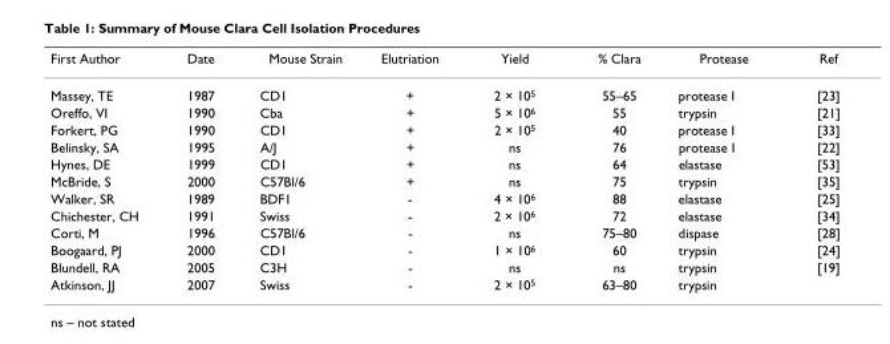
<table><thead><tr><td>First Author</td><td>Date</td><td>Mouse Strain</td><td>Elutriation</td><td>Yield</td><td>% Clara</td><td>Protease</td><td>Ref</td></tr></thead><tbody><tr><td>Massey, TE</td><td>1987</td><td>CD1</td><td>+</td><td>2 × 10<sup>5</sup></td><td>55–65</td><td>protease I</td><td>[23]</td></tr><tr><td>Oreffo, VI</td><td>1990</td><td>Cba</td><td>+</td><td>5 × 10<sup>6</sup></td><td>55</td><td>trypsin</td><td>[21]</td></tr><tr><td>Forkert, PG</td><td>1990</td><td>CD1</td><td>+</td><td>2 × 10<sup>5</sup></td><td>40</td><td>protease I</td><td>[33]</td></tr><tr><td>Belinsky, SA</td><td>1995</td><td>A/J</td><td>+</td><td>ns</td><td>76</td><td>protease I</td><td>[22]</td></tr><tr><td>Hynes, DE</td><td>1999</td><td>CD1</td><td>+</td><td>ns</td><td>64</td><td>elastase</td><td>[53]</td></tr><tr><td>McBride, S</td><td>2000</td><td>C57Bl/6</td><td>+</td><td>ns</td><td>75</td><td>trypsin</td><td>[35]</td></tr><tr><td>Walker, SR</td><td>1989</td><td>BDF1</td><td>-</td><td>4 × 10<sup>6</sup></td><td>88</td><td>elastase</td><td>[25]</td></tr><tr><td>Chichester, CH</td><td>1991</td><td>Swiss</td><td>-</td><td>2 × 10<sup>6</sup></td><td>72</td><td>elastase</td><td>[34]</td></tr><tr><td>Corti, M</td><td>1996</td><td>C57Bl/6</td><td>-</td><td>ns</td><td>75–80</td><td>dispase</td><td>[28]</td></tr><tr><td>Boogaard, PJ</td><td>2000</td><td>CD1</td><td>-</td><td>1 × 10<sup>6</sup></td><td>60</td><td>trypsin</td><td>[24]</td></tr><tr><td>Blundell, RA</td><td>2005</td><td>C3H</td><td>-</td><td>ns</td><td>ns</td><td>trypsin</td><td>[19]</td></tr><tr><td>Atkinson, JJ</td><td>2007</td><td>Swiss</td><td>-</td><td>2 × 10<sup>5</sup></td><td>63–80</td><td>trypsin</td><td></td></tr></tbody></table>